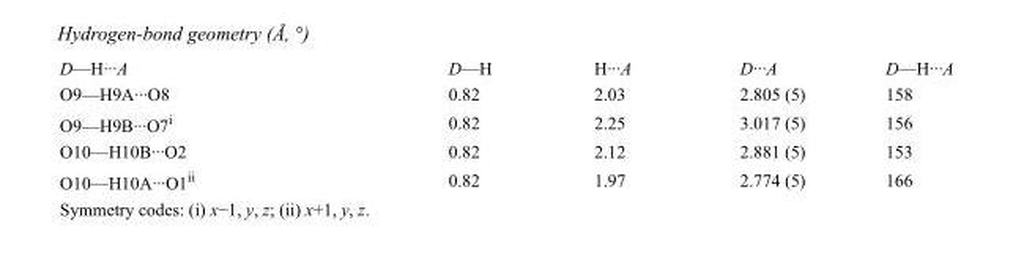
<table><tbody><tr><td>D—H···A</td><td>D—H</td><td>H···A</td><td>D···A</td><td>D—H···A</td></tr><tr><td>O9—H9A···O8</td><td>0.82</td><td>2.03</td><td>2.805 (5)</td><td>158</td></tr><tr><td>O9—H9B···O7<sup>i</sup></td><td>0.82</td><td>2.25</td><td>3.017 (5)</td><td>156</td></tr><tr><td>O10—H10B···O2</td><td>0.82</td><td>2.12</td><td>2.881 (5)</td><td>153</td></tr><tr><td>O10—H10A···O1<sup>ii</sup></td><td>0.82</td><td>1.97</td><td>2.774 (5)</td><td>166</td></tr></tbody></table>